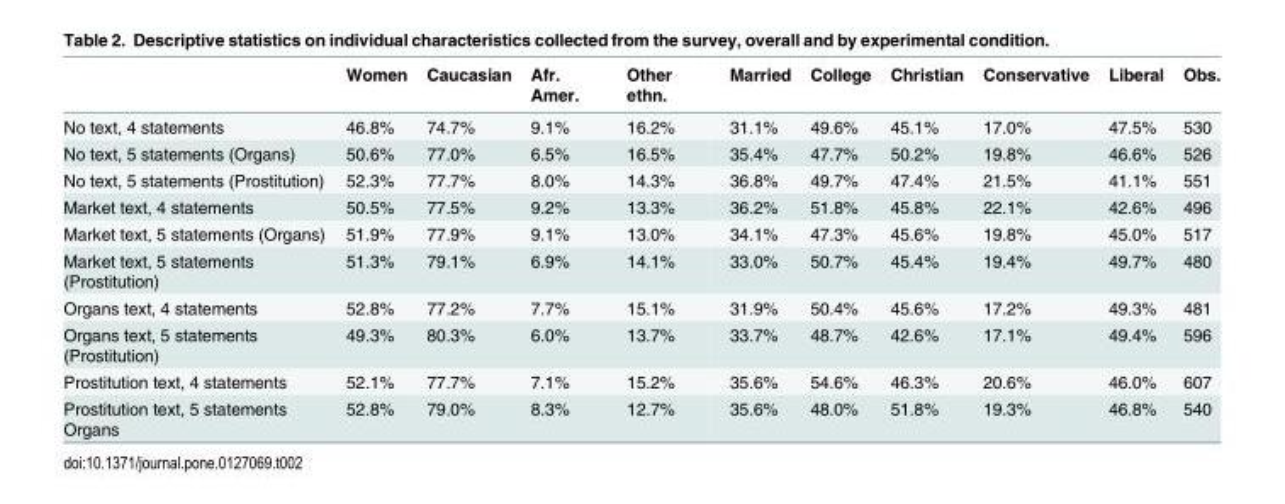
<table><thead><tr><td></td><td>Women</td><td>Caucasian</td><td>Afr. Amer.</td><td>Other ethn.</td><td>Married</td><td>College</td><td>Christian</td><td>Conservative</td><td>Liberal</td><td>Obs.</td></tr></thead><tbody><tr><td>No text, 4 statements</td><td>46.8%</td><td>74.7%</td><td>9.1%</td><td>16.2%</td><td>31.1%</td><td>49.6%</td><td>45.1%</td><td>17.0%</td><td>47.5%</td><td>530</td></tr><tr><td>No text, 5 statements (Organs)</td><td>50.6%</td><td>77.0%</td><td>6.5%</td><td>16.5%</td><td>35.4%</td><td>47.7%</td><td>50.2%</td><td>19.8%</td><td>46.6%</td><td>526</td></tr><tr><td>No text, 5 statements (Prostitution)</td><td>52.3%</td><td>77.7%</td><td>8.0%</td><td>14.3%</td><td>36.8%</td><td>49.7%</td><td>47.4%</td><td>21.5%</td><td>41.1%</td><td>551</td></tr><tr><td>Market text, 4 statements</td><td>50.5%</td><td>77.5%</td><td>9.2%</td><td>13.3%</td><td>36.2%</td><td>51.8%</td><td>45.8%</td><td>22.1%</td><td>42.6%</td><td>496</td></tr><tr><td>Market text, 5 statements (Organs)</td><td>51.9%</td><td>77.9%</td><td>9.1%</td><td>13.0%</td><td>34.1%</td><td>47.3%</td><td>45.6%</td><td>19.8%</td><td>45.0%</td><td>517</td></tr><tr><td>Market text, 5 statements (Prostitution)</td><td>51.3%</td><td>79.1%</td><td>6.9%</td><td>14.1%</td><td>33.0%</td><td>50.7%</td><td>45.4%</td><td>19.4%</td><td>49.7%</td><td>480</td></tr><tr><td>Organs text, 4 statements</td><td>52.8%</td><td>77.2%</td><td>7.7%</td><td>15.1%</td><td>31.9%</td><td>50.4%</td><td>45.6%</td><td>17.2%</td><td>49.3%</td><td>481</td></tr><tr><td>Organs text, 5 statements (Prostitution)</td><td>49.3%</td><td>80.3%</td><td>6.0%</td><td>13.7%</td><td>33.7%</td><td>48.7%</td><td>42.6%</td><td>17.1%</td><td>49.4%</td><td>596</td></tr><tr><td>Prostitution text, 4 statements</td><td>52.1%</td><td>77.7%</td><td>7.1%</td><td>15.2%</td><td>35.6%</td><td>54.6%</td><td>46.3%</td><td>20.6%</td><td>46.0%</td><td>607</td></tr><tr><td>Prostitution text, 5 statements Organs</td><td>52.8%</td><td>79.0%</td><td>8.3%</td><td>12.7%</td><td>35.6%</td><td>48.0%</td><td>51.8%</td><td>19.3%</td><td>46.8%</td><td>540</td></tr></tbody></table>